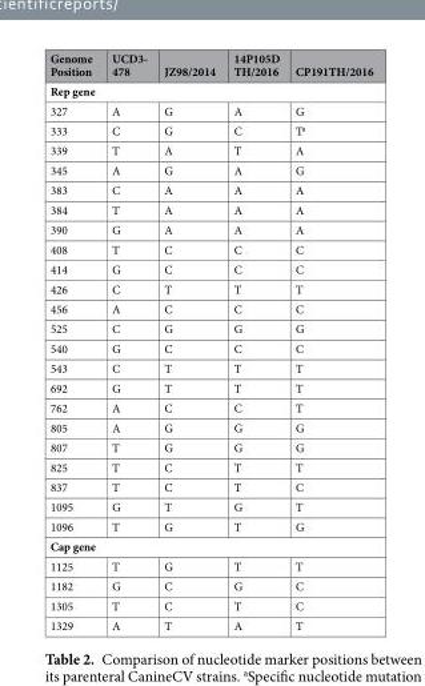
<table><thead><tr><td>Genome Position</td><td>UCD3- 478</td><td>JZ98/2014</td><td>14P105D TH/2016</td><td>CP191TH/2016</td></tr></thead><tbody><tr><td colspan="5">Rep gene</td></tr><tr><td>327</td><td>A</td><td>G</td><td>A</td><td>G</td></tr><tr><td>333</td><td>C</td><td>G</td><td>C</td><td>T<sup>a</sup></td></tr><tr><td>339</td><td>T</td><td>A</td><td>T</td><td>A</td></tr><tr><td>345</td><td>A</td><td>G</td><td>A</td><td>G</td></tr><tr><td>383</td><td>C</td><td>A</td><td>A</td><td>A</td></tr><tr><td>384</td><td>T</td><td>A</td><td>A</td><td>A</td></tr><tr><td>390</td><td>G</td><td>A</td><td>A</td><td>A</td></tr><tr><td>408</td><td>T</td><td>C</td><td>C</td><td>C</td></tr><tr><td>414</td><td>G</td><td>C</td><td>C</td><td>C</td></tr><tr><td>426</td><td>C</td><td>T</td><td>T</td><td>T</td></tr><tr><td>456</td><td>A</td><td>C</td><td>C</td><td>C</td></tr><tr><td>525</td><td>C</td><td>G</td><td>G</td><td>G</td></tr><tr><td>540</td><td>G</td><td>C</td><td>C</td><td>C</td></tr><tr><td>543</td><td>C</td><td>T</td><td>T</td><td>T</td></tr><tr><td>692</td><td>G</td><td>T</td><td>T</td><td>T</td></tr><tr><td>762</td><td>A</td><td>C</td><td>C</td><td>T</td></tr><tr><td>805</td><td>A</td><td>G</td><td>G</td><td>G</td></tr><tr><td>807</td><td>T</td><td>G</td><td>G</td><td>G</td></tr><tr><td>825</td><td>T</td><td>C</td><td>T</td><td>T</td></tr><tr><td>837</td><td>T</td><td>C</td><td>T</td><td>C</td></tr><tr><td>1095</td><td>G</td><td>T</td><td>G</td><td>T</td></tr><tr><td>1096</td><td>T</td><td>G</td><td>T</td><td>G</td></tr><tr><td colspan="5">Cap gene</td></tr><tr><td>1125</td><td>T</td><td>G</td><td>T</td><td>T</td></tr><tr><td>1182</td><td>G</td><td>C</td><td>G</td><td>C</td></tr><tr><td>1305</td><td>T</td><td>C</td><td>T</td><td>C</td></tr><tr><td>1329</td><td>A</td><td>T</td><td>A</td><td>T</td></tr></tbody></table>